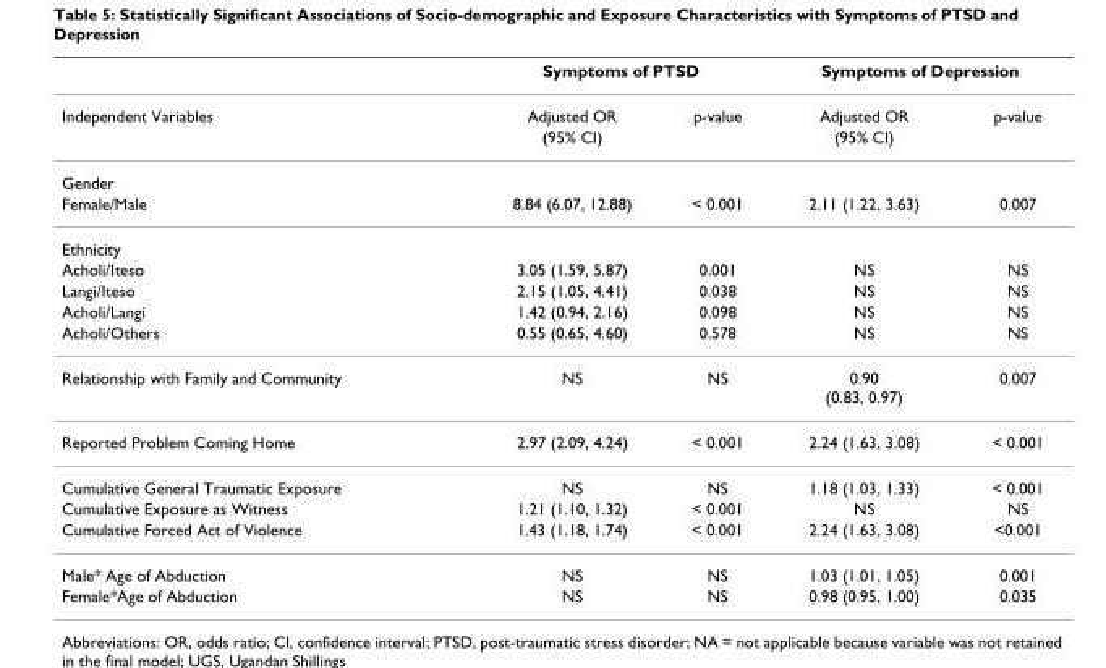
<table><thead><tr><td rowspan="2">Independent Variables</td><td colspan="2">Symptoms of PTSD</td><td colspan="2">Symptoms of Depression</td></tr><tr><td>Adjusted OR</td><td>p-value</td><td>Adjusted OR</td><td>p-value</td></tr></thead><tbody><tr><td></td><td>(95% CI)</td><td></td><td>(95% CI)</td><td></td></tr><tr><td colspan="5">Gender</td></tr><tr><td>Female/Male</td><td>8.84 (6.07, 12.88)</td><td>&lt; 0.001</td><td>2.11 (1.22, 3.63)</td><td>0.007</td></tr><tr><td colspan="5">Ethnicity</td></tr><tr><td>Acholi/Iteso</td><td>3.05 (1.59, 5.87)</td><td>0.001</td><td>NS</td><td>NS</td></tr><tr><td>Langi/Iteso</td><td>2.15 (1.05, 4.41)</td><td>0.038</td><td>NS</td><td>NS</td></tr><tr><td>Acholi/Langi</td><td>1.42 (0.94, 2.16)</td><td>0.098</td><td>NS</td><td>NS</td></tr><tr><td>Acholi/Others</td><td>0.55 (0.65, 4.60)</td><td>0.578</td><td>NS</td><td>NS</td></tr><tr><td>Relationship with Family and Community</td><td>NS</td><td>NS</td><td>0.90 (0.83, 0.97)</td><td>0.007</td></tr><tr><td>Reported Problem Coming Home</td><td>2.97 (2.09, 4.24)</td><td>&lt; 0.001</td><td>2.24 (1.63, 3.08)</td><td>&lt; 0.001</td></tr><tr><td>Cumulative General Traumatic Exposure</td><td>NS</td><td>NS</td><td>1.18 (1.03, 1.33)</td><td>&lt; 0.001</td></tr><tr><td>Cumulative Exposure as Witness</td><td>1.21 (1.10, 1.32)</td><td>&lt; 0.001</td><td>NS</td><td>NS</td></tr><tr><td>Cumulative Forced Act of Violence</td><td>1.43 (1.18, 1.74)</td><td>&lt; 0.001</td><td>2.24 (1.63, 3.08)</td><td>&lt;0.001</td></tr><tr><td>Male* Age of Abduction</td><td>NS</td><td>NS</td><td>1.03 (1.01, 1.05)</td><td>0.001</td></tr><tr><td>Female*Age of Abduction</td><td>NS</td><td>NS</td><td>0.98 (0.95, 1.00)</td><td>0.035</td></tr></tbody></table>